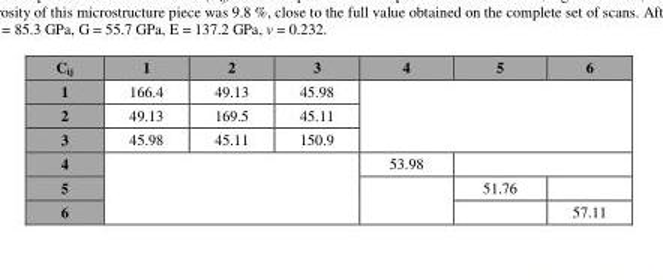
<table><thead><tr><td>C<sub>ij</sub></td><td>1</td><td>2</td><td>3</td><td>4</td><td>5</td><td>6</td></tr></thead><tbody><tr><td>1</td><td>166.4</td><td>49.13</td><td>45.98</td><td rowspan="3" colspan="3"></td></tr><tr><td>2</td><td>49.13</td><td>169.5</td><td>45.11</td></tr><tr><td>3</td><td>45.98</td><td>45.11</td><td>150.9</td></tr><tr><td>4</td><td rowspan="3" colspan="3"></td><td>53.98</td><td colspan="2"></td></tr><tr><td>5</td><td rowspan="2"></td><td>51.76</td><td></td></tr><tr><td>6</td><td></td><td>57.11</td></tr></tbody></table>